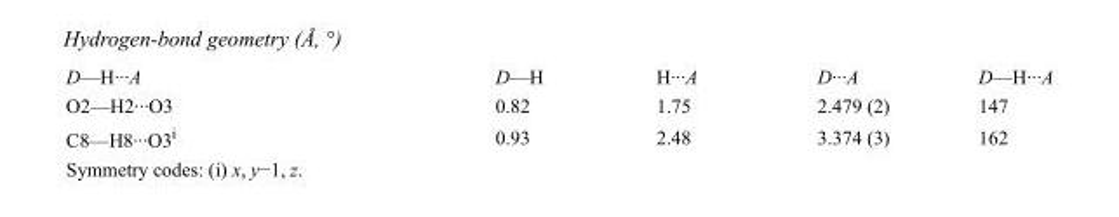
<table><tbody><tr><td>D—H···A</td><td>D—H</td><td>H···A</td><td>D···A</td><td>D—H···A</td></tr><tr><td>O2—H2···O3</td><td>0.82</td><td>1.75</td><td>2.479 (2)</td><td>147</td></tr><tr><td>C8—H8···O3<sup>i</sup></td><td>0.93</td><td>2.48</td><td>3.374 (3)</td><td>162</td></tr></tbody></table>